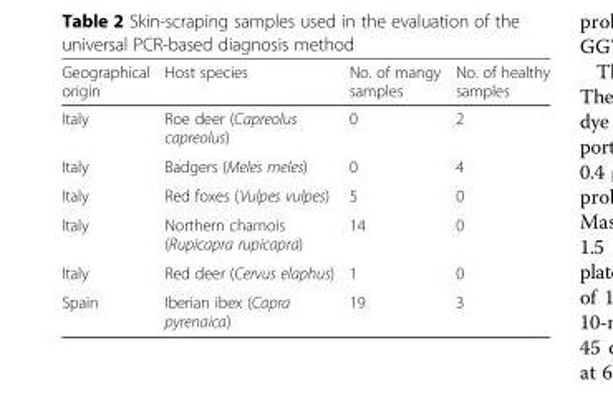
<table><thead><tr><td>Geographical origin</td><td>Host species</td><td>No. of mangy samples</td><td>No. of healthy samples</td></tr></thead><tbody><tr><td>Italy</td><td>Roe deer (Capreolus capreolus)</td><td>0</td><td>2</td></tr><tr><td>Italy</td><td>Badgers (Meles meles)</td><td>0</td><td>4</td></tr><tr><td>Italy</td><td>Red foxes (Vulpes vulpes)</td><td>5</td><td>0</td></tr><tr><td>Italy</td><td>Northern chamois (Rupicapra rupicapra)</td><td>14</td><td>0</td></tr><tr><td>Italy</td><td>Red deer (Cervus elaphus)</td><td>1</td><td>0</td></tr><tr><td>Spain</td><td>Iberian ibex (Capra pyrenaica)</td><td>19</td><td>3</td></tr></tbody></table>